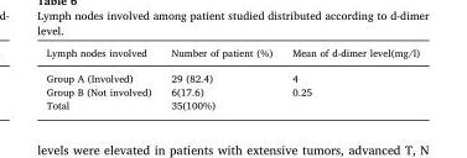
<table><thead><tr><td>Lymph nodes involved</td><td>Number of patient (%)</td><td>Mean of d-dimer level(mg/l)</td></tr></thead><tbody><tr><td>Group A (Involved)</td><td>29 (82.4)</td><td>4</td></tr><tr><td>Group B (Not involved)</td><td>6(17.6)</td><td>0.25</td></tr><tr><td>Total</td><td>35(100%)</td><td></td></tr></tbody></table>